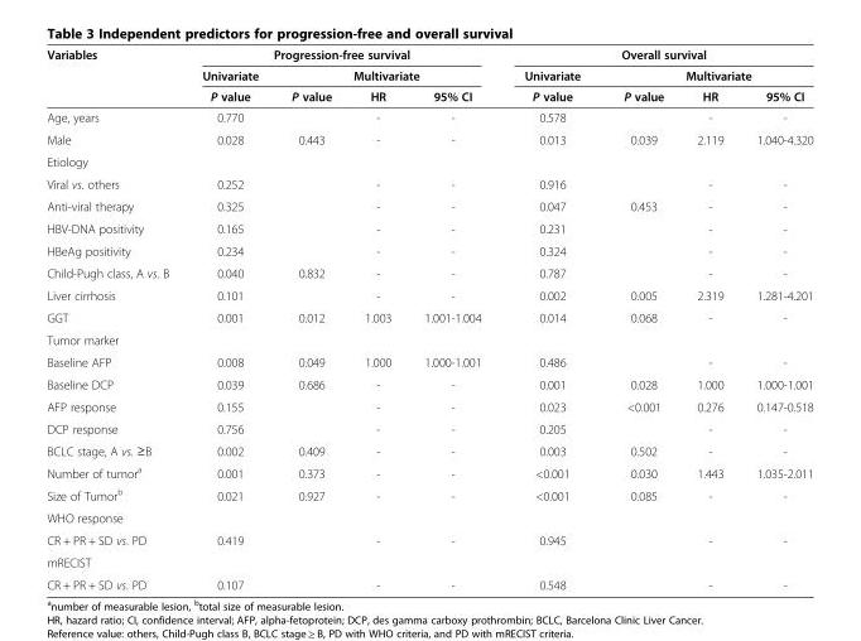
<table><thead><tr><td rowspan="3">Variables</td><td colspan="4">Progression-free survival</td><td colspan="4">Overall survival</td></tr><tr><td rowspan="2">Univariate P value</td><td colspan="3">Multivariate</td><td rowspan="2">Univariate P value</td><td colspan="3">Multivariate</td></tr><tr><td>P value</td><td>HR</td><td>95% CI</td><td>P value</td><td>HR</td><td>95% CI</td></tr></thead><tbody><tr><td>Age, years</td><td>0.770</td><td></td><td>-</td><td>-</td><td>0.578</td><td></td><td>-</td><td>-</td></tr><tr><td>Male</td><td>0.028</td><td>0.443</td><td>-</td><td>-</td><td>0.013</td><td>0.039</td><td>2.119</td><td>1.040-4.320</td></tr><tr><td colspan="9">Etiology</td></tr><tr><td>Viral vs. others</td><td>0.252</td><td></td><td>-</td><td>-</td><td>0.916</td><td></td><td>-</td><td>-</td></tr><tr><td>Anti-viral therapy</td><td>0.325</td><td></td><td>-</td><td>-</td><td>0.047</td><td>0.453</td><td>-</td><td>-</td></tr><tr><td>HBV-DNA positivity</td><td>0.165</td><td></td><td>-</td><td>-</td><td>0.231</td><td></td><td>-</td><td>-</td></tr><tr><td>HBeAg positivity</td><td>0.234</td><td></td><td>-</td><td>-</td><td>0.324</td><td></td><td>-</td><td>-</td></tr><tr><td>Child-Pugh class, A vs. B</td><td>0.040</td><td>0.832</td><td>-</td><td>-</td><td>0.787</td><td></td><td>-</td><td>-</td></tr><tr><td>Liver cirrhosis</td><td>0.101</td><td></td><td>-</td><td>-</td><td>0.002</td><td>0.005</td><td>2.319</td><td>1.281-4.201</td></tr><tr><td>GGT</td><td>0.001</td><td>0.012</td><td>1.003</td><td>1.001-1.004</td><td>0.014</td><td>0.068</td><td>-</td><td>-</td></tr><tr><td colspan="9">Tumor marker</td></tr><tr><td>Baseline AFP</td><td>0.008</td><td>0.049</td><td>1.000</td><td>1.000-1.001</td><td>0.486</td><td></td><td>-</td><td>-</td></tr><tr><td>Baseline DCP</td><td>0.039</td><td>0.686</td><td>-</td><td>-</td><td>0.001</td><td>0.028</td><td>1.000</td><td>1.000-1.001</td></tr><tr><td>AFP response</td><td>0.155</td><td></td><td>-</td><td>-</td><td>0.023</td><td>&lt;0.001</td><td>0.276</td><td>0.147-0.518</td></tr><tr><td>DCP response</td><td>0.756</td><td></td><td>-</td><td>-</td><td>0.205</td><td></td><td>-</td><td>-</td></tr><tr><td>BCLC stage, A vs. ≥B</td><td>0.002</td><td>0.409</td><td>-</td><td>-</td><td>0.003</td><td>0.502</td><td>-</td><td>-</td></tr><tr><td>Number of tumor<sup>a</sup></td><td>0.001</td><td>0.373</td><td>-</td><td>-</td><td>&lt;0.001</td><td>0.030</td><td>1.443</td><td>1.035-2.011</td></tr><tr><td>Size of Tumor<sup>b</sup></td><td>0.021</td><td>0.927</td><td>-</td><td>-</td><td>&lt;0.001</td><td>0.085</td><td>-</td><td>-</td></tr><tr><td colspan="9">WHO response</td></tr><tr><td>CR + PR + SD vs. PD</td><td>0.419</td><td></td><td>-</td><td>-</td><td>0.945</td><td></td><td>-</td><td>-</td></tr><tr><td colspan="9">mRECIST</td></tr><tr><td>CR + PR + SD vs. PD</td><td>0.107</td><td></td><td>-</td><td>-</td><td>0.548</td><td></td><td>-</td><td>-</td></tr></tbody></table>